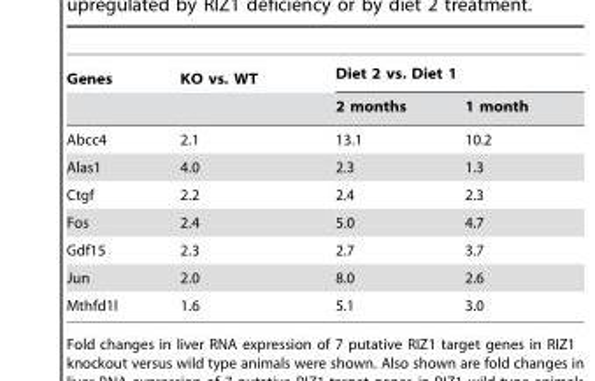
<table><thead><tr><td rowspan="2">Genes</td><td rowspan="2">KO vs. WT</td><td colspan="2">Diet 2 vs. Diet 1</td></tr><tr><td>2 months</td><td>1 month</td></tr></thead><tbody><tr><td>Abcc4</td><td>2.1</td><td>13.1</td><td>10.2</td></tr><tr><td>Alas1</td><td>4.0</td><td>2.3</td><td>1.3</td></tr><tr><td>Ctgf</td><td>2.2</td><td>2.4</td><td>2.3</td></tr><tr><td>Fos</td><td>2.4</td><td>5.0</td><td>4.7</td></tr><tr><td>Gdf15</td><td>2.3</td><td>2.7</td><td>3.7</td></tr><tr><td>Jun</td><td>2.0</td><td>8.0</td><td>2.6</td></tr><tr><td>Mthfd1l</td><td>1.6</td><td>5.1</td><td>3.0</td></tr></tbody></table>